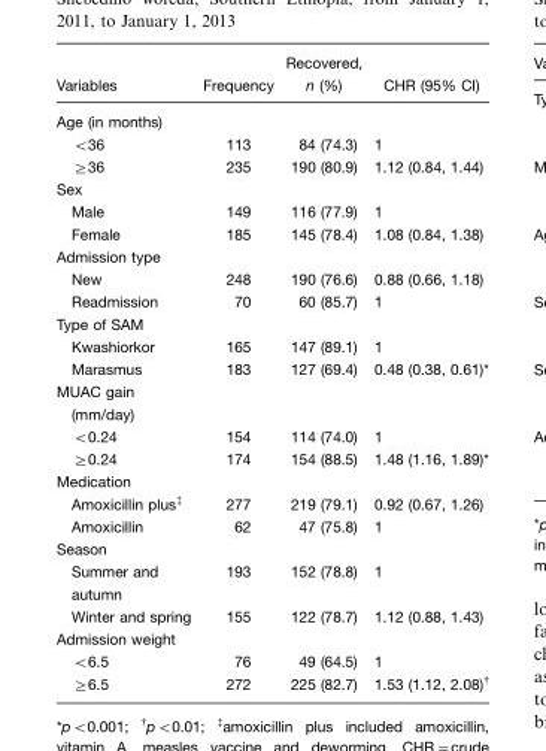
<table><thead><tr><td>Variables</td><td>Frequency</td><td>Recovered, n (%)</td><td>CHR (95% CI)</td></tr></thead><tbody><tr><td colspan="4">Age (in months)</td></tr><tr><td>&lt;36</td><td>113</td><td>84 (74.3)</td><td>1</td></tr><tr><td>≥36</td><td>235</td><td>190 (80.9)</td><td>1.12 (0.84, 1.44)</td></tr><tr><td colspan="4">Sex</td></tr><tr><td>Male</td><td>149</td><td>116 (77.9)</td><td>1</td></tr><tr><td>Female</td><td>185</td><td>145 (78.4)</td><td>1.08 (0.84, 1.38)</td></tr><tr><td colspan="4">Admission type</td></tr><tr><td>New</td><td>248</td><td>190 (76.6)</td><td>0.88 (0.66, 1.18)</td></tr><tr><td>Readmission</td><td>70</td><td>60 (85.7)</td><td>1</td></tr><tr><td colspan="4">Type of SAM</td></tr><tr><td>Kwashiorkor</td><td>165</td><td>147 (89.1)</td><td>1</td></tr><tr><td>Marasmus</td><td>183</td><td>127 (69.4)</td><td>0.48 (0.38, 0.61)*</td></tr><tr><td colspan="4">MUAC gain (mm/day)</td></tr><tr><td>&lt;0.24</td><td>154</td><td>114 (74.0)</td><td>1</td></tr><tr><td>≥0.24</td><td>174</td><td>154 (88.5)</td><td>1.48 (1.16, 1.89)*</td></tr><tr><td colspan="4">Medication</td></tr><tr><td>Amoxicillin plus‡</td><td>277</td><td>219 (79.1)</td><td>0.92 (0.67, 1.26)</td></tr><tr><td>Amoxicillin</td><td>62</td><td>47 (75.8)</td><td>1</td></tr><tr><td colspan="4">Season</td></tr><tr><td>Summer and autumn</td><td>193</td><td>152 (78.8)</td><td>1</td></tr><tr><td>Winter and spring</td><td>155</td><td>122 (78.7)</td><td>1.12 (0.88, 1.43)</td></tr><tr><td colspan="4">Admission weight</td></tr><tr><td>&lt;6.5</td><td>76</td><td>49 (64.5)</td><td>1</td></tr><tr><td>≥6.5</td><td>272</td><td>225 (82.7)</td><td>1.53 (1.12, 2.08)†</td></tr></tbody></table>